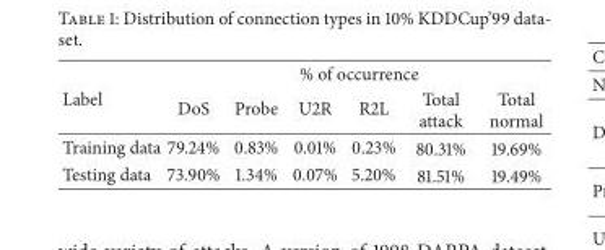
<table><thead><tr><td rowspan="2">Label</td><td colspan="6">% of occurrence</td></tr><tr><td>DoS</td><td>Probe</td><td>U2R</td><td>R2L</td><td>Total attack</td><td>Total normal</td></tr></thead><tbody><tr><td>Training data</td><td>79.24%</td><td>0.83%</td><td>0.01%</td><td>0.23%</td><td>80.31%</td><td>19.69%</td></tr><tr><td>Testing data</td><td>73.90%</td><td>1.34%</td><td>0.07%</td><td>5.20%</td><td>81.51%</td><td>19.49%</td></tr></tbody></table>